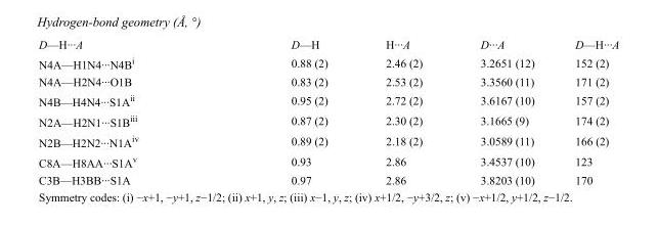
<table><tbody><tr><td>D—H···A</td><td>D—H</td><td>H···A</td><td>D···A</td><td>D—H···A</td></tr><tr><td>N4A—H1N4···N4B<sup>i</sup></td><td>0.88 (2)</td><td>2.46 (2)</td><td>3.2651 (12)</td><td>152 (2)</td></tr><tr><td>N4A—H2N4···O1B</td><td>0.83 (2)</td><td>2.53 (2)</td><td>3.3560 (11)</td><td>171 (2)</td></tr><tr><td>N4B—H4N4···S1A<sup>ii</sup></td><td>0.95 (2)</td><td>2.72 (2)</td><td>3.6167 (10)</td><td>157 (2)</td></tr><tr><td>N2A—H2N1···S1B<sup>iii</sup></td><td>0.87 (2)</td><td>2.30 (2)</td><td>3.1665 (9)</td><td>174 (2)</td></tr><tr><td>N2B—H2N2···N1A<sup>iv</sup></td><td>0.89 (2)</td><td>2.18 (2)</td><td>3.0589 (11)</td><td>166 (2)</td></tr><tr><td>C8A—H8AA···S1A<sup>v</sup></td><td>0.93</td><td>2.86</td><td>3.4537 (10)</td><td>123</td></tr><tr><td>C3B—H3BB···S1A</td><td>0.97</td><td>2.86</td><td>3.8203 (10)</td><td>170</td></tr></tbody></table>